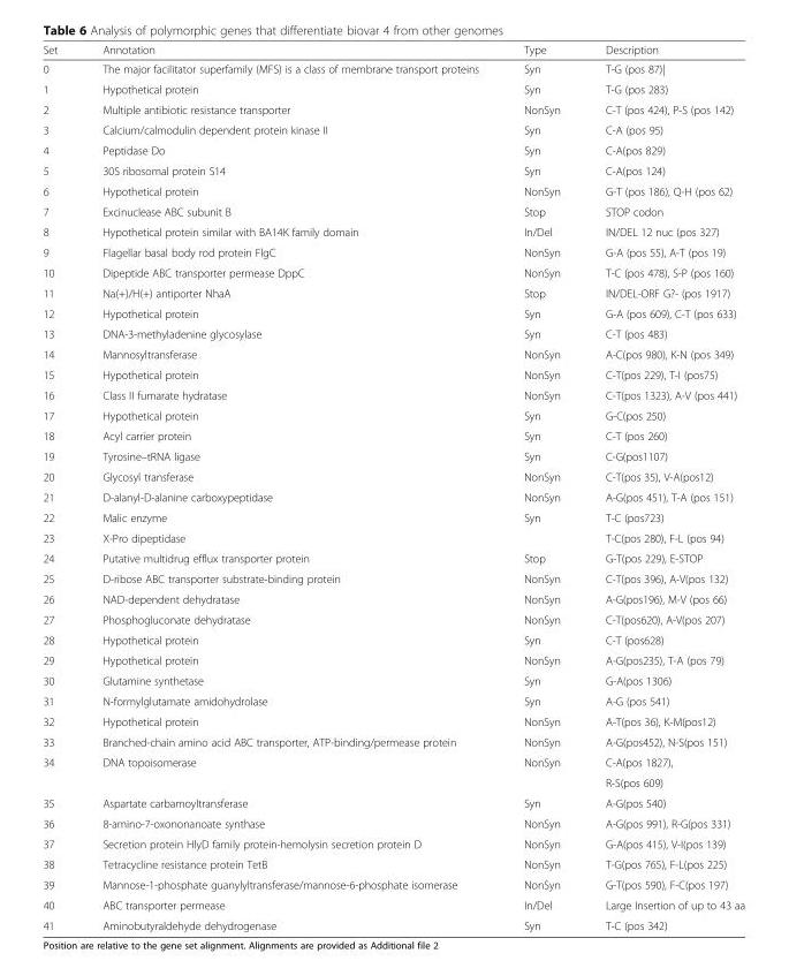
<table><thead><tr><td>Set</td><td>Annotation</td><td>Type</td><td>Description</td></tr></thead><tbody><tr><td>0</td><td>The major facilitator superfamily (MFS) is a class of membrane transport proteins</td><td>Syn</td><td>T-G (pos 87)|</td></tr><tr><td>1</td><td>Hypothetical protein</td><td>Syn</td><td>T-G (pos 283)</td></tr><tr><td>2</td><td>Multiple antibiotic resistance transporter</td><td>NonSyn</td><td>C-T (pos 424), P-S (pos 142)</td></tr><tr><td>3</td><td>Calcium/calmodulin dependent protein kinase II</td><td>Syn</td><td>C-A (pos 95)</td></tr><tr><td>4</td><td>Peptidase Do</td><td>Syn</td><td>C-A(pos 829)</td></tr><tr><td>5</td><td>30S ribosomal protein S14</td><td>Syn</td><td>C-A(pos 124)</td></tr><tr><td>6</td><td>Hypothetical protein</td><td>NonSyn</td><td>G-T (pos 186), Q-H (pos 62)</td></tr><tr><td>7</td><td>Excinuclease ABC subunit B</td><td>Stop</td><td>STOP codon</td></tr><tr><td>8</td><td>Hypothetical protein similar with BA14K family domain</td><td>In/Del</td><td>IN/DEL 12 nuc (pos 327)</td></tr><tr><td>9</td><td>Flagellar basal body rod protein FlgC</td><td>NonSyn</td><td>G-A (pos 55), A-T (pos 19)</td></tr><tr><td>10</td><td>Dipeptide ABC transporter permease DppC</td><td>NonSyn</td><td>T-C (pos 478), S-P (pos 160)</td></tr><tr><td>11</td><td>Na(+)/H(+) antiporter NhaA</td><td>Stop</td><td>IN/DEL-ORF G?- (pos 1917)</td></tr><tr><td>12</td><td>Hypothetical protein</td><td>Syn</td><td>G-A (pos 609), C-T (pos 633)</td></tr><tr><td>13</td><td>DNA-3-methyladenine glycosylase</td><td>Syn</td><td>C-T (pos 483)</td></tr><tr><td>14</td><td>Mannosyltransferase</td><td>NonSyn</td><td>A-C(pos 980), K-N (pos 349)</td></tr><tr><td>15</td><td>Hypothetical protein</td><td>NonSyn</td><td>C-T(pos 229), T-I (pos75)</td></tr><tr><td>16</td><td>Class II fumarate hydratase</td><td>NonSyn</td><td>C-T(pos 1323), A-V (pos 441)</td></tr><tr><td>17</td><td>Hypothetical protein</td><td>Syn</td><td>G-C(pos 250)</td></tr><tr><td>18</td><td>Acyl carrier protein</td><td>Syn</td><td>C-T (pos 260)</td></tr><tr><td>19</td><td>Tyrosine–tRNA ligase</td><td>Syn</td><td>C-G(pos1107)</td></tr><tr><td>20</td><td>Glycosyl transferase</td><td>NonSyn</td><td>C-T(pos 35), V-A(pos12)</td></tr><tr><td>21</td><td>D-alanyl-D-alanine carboxypeptidase</td><td>NonSyn</td><td>A-G(pos 451), T-A (pos 151)</td></tr><tr><td>22</td><td>Malic enzyme</td><td>Syn</td><td>T-C (pos723)</td></tr><tr><td>23</td><td>X-Pro dipeptidase</td><td></td><td>T-C(pos 280), F-L (pos 94)</td></tr><tr><td>24</td><td>Putative multidrug efflux transporter protein</td><td>Stop</td><td>G-T(pos 229), E-STOP</td></tr><tr><td>25</td><td>D-ribose ABC transporter substrate-binding protein</td><td>NonSyn</td><td>C-T(pos 396), A-V(pos 132)</td></tr><tr><td>26</td><td>NAD-dependent dehydratase</td><td>NonSyn</td><td>A-G(pos196), M-V (pos 66)</td></tr><tr><td>27</td><td>Phosphogluconate dehydratase</td><td>NonSyn</td><td>C-T(pos620), A-V(pos 207)</td></tr><tr><td>28</td><td>Hypothetical protein</td><td>Syn</td><td>C-T (pos628)</td></tr><tr><td>29</td><td>Hypothetical protein</td><td>NonSyn</td><td>A-G(pos235), T-A (pos 79)</td></tr><tr><td>30</td><td>Glutamine synthetase</td><td>Syn</td><td>G-A(pos 1306)</td></tr><tr><td>31</td><td>N-formylglutamate amidohydrolase</td><td>Syn</td><td>A-G (pos 541)</td></tr><tr><td>32</td><td>Hypothetical protein</td><td>NonSyn</td><td>A-T(pos 36), K-M(pos12)</td></tr><tr><td>33</td><td>Branched-chain amino acid ABC transporter, ATP-binding/permease protein</td><td>NonSyn</td><td>A-G(pos452), N-S(pos 151)</td></tr><tr><td rowspan="2">34</td><td rowspan="2">DNA topoisomerase</td><td>NonSyn</td><td>C-A(pos 1827),</td></tr><tr><td></td><td>R-S(pos 609)</td></tr><tr><td>35</td><td>Aspartate carbamoyltransferase</td><td>Syn</td><td>A-G(pos 540)</td></tr><tr><td>36</td><td>8-amino-7-oxononanoate synthase</td><td>NonSyn</td><td>A-G(pos 991), R-G(pos 331)</td></tr><tr><td>37</td><td>Secretion protein HlyD family protein-hemolysin secretion protein D</td><td>NonSyn</td><td>G-A(pos 415), V-I(pos 139)</td></tr><tr><td>38</td><td>Tetracycline resistance protein TetB</td><td>NonSyn</td><td>T-G(pos 765), F-L(pos 225)</td></tr><tr><td>39</td><td>Mannose-1-phosphate guanylyltransferase/mannose-6-phosphate isomerase</td><td>NonSyn</td><td>G-T(pos 590), F-C(pos 197)</td></tr><tr><td>40</td><td>ABC transporter permease</td><td>In/Del</td><td>Large Insertion of up to 43 aa</td></tr><tr><td>41</td><td>Aminobutyraldehyde dehydrogenase</td><td>Syn</td><td>T-C (pos 342)</td></tr></tbody></table>